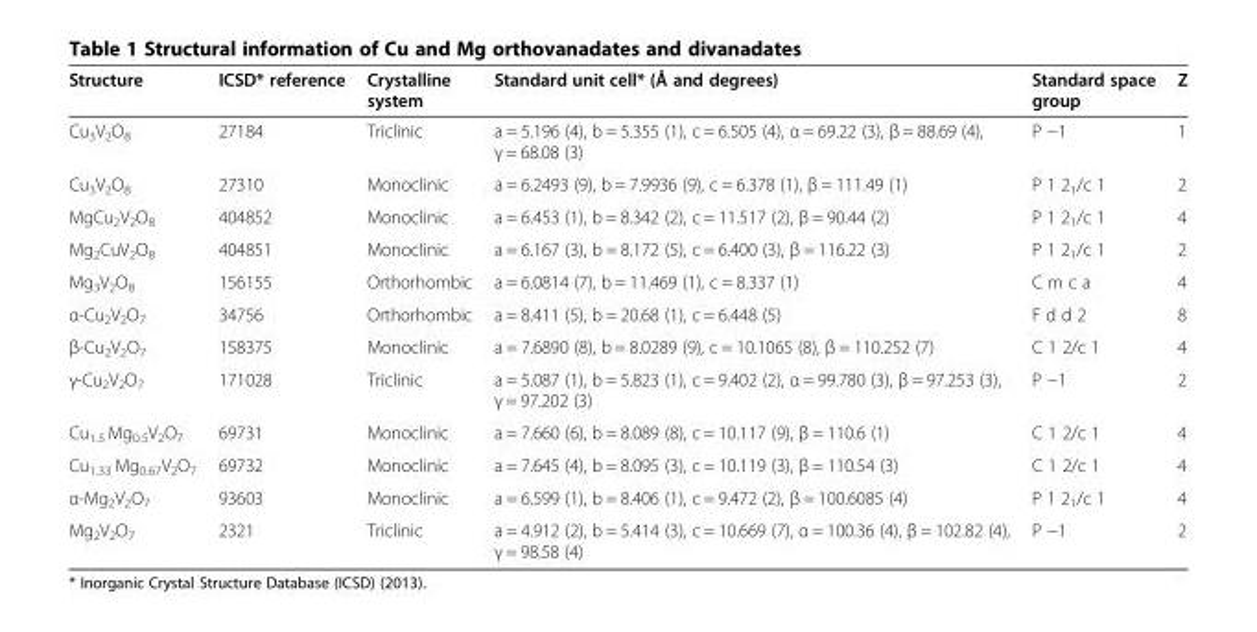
<table><thead><tr><td>Structure</td><td>ICSD* reference</td><td>Crystalline system</td><td>Standard unit cell* (Å and degrees)</td><td>Standard space group</td><td>Z</td></tr></thead><tbody><tr><td>Cu<sub>3</sub>V<sub>2</sub>O<sub>8</sub></td><td>27184</td><td>Triclinic</td><td>a = 5.196 (4), b = 5.355 (1), c = 6.505 (4), α = 69.22 (3), β = 88.69 (4), γ = 68.08 (3)</td><td>P −1</td><td>1</td></tr><tr><td>Cu<sub>3</sub>V<sub>2</sub>O<sub>8</sub></td><td>27310</td><td>Monoclinic</td><td>a = 6.2493 (9), b = 7.9936 (9), c = 6.378 (1), β = 111.49 (1)</td><td>P 1 2<sub>1</sub>/c 1</td><td>2</td></tr><tr><td>MgCu<sub>2</sub>V<sub>2</sub>O<sub>8</sub></td><td>404852</td><td>Monoclinic</td><td>a = 6.453 (1), b = 8.342 (2), c = 11.517 (2), β = 90.44 (2)</td><td>P 1 2<sub>1</sub>/c 1</td><td>4</td></tr><tr><td>Mg<sub>2</sub>CuV<sub>2</sub>O<sub>8</sub></td><td>404851</td><td>Monoclinic</td><td>a = 6.167 (3), b = 8.172 (5), c = 6.400 (3), β = 116.22 (3)</td><td>P 1 2<sub>1</sub>/c 1</td><td>2</td></tr><tr><td>Mg<sub>3</sub>V<sub>2</sub>O<sub>8</sub></td><td>156155</td><td>Orthorhombic</td><td>a = 6.0814 (7), b = 11.469 (1), c = 8.337 (1)</td><td>C m c a</td><td>4</td></tr><tr><td>α-Cu<sub>2</sub>V<sub>2</sub>O<sub>7</sub></td><td>34756</td><td>Orthorhombic</td><td>a = 8.411 (5), b = 20.68 (1), c = 6.448 (5)</td><td>F d d 2</td><td>8</td></tr><tr><td>β-Cu<sub>2</sub>V<sub>2</sub>O<sub>7</sub></td><td>158375</td><td>Monoclinic</td><td>a = 7.6890 (8), b = 8.0289 (9), c = 10.1065 (8), β = 110.252 (7)</td><td>C 1 2/c 1</td><td>4</td></tr><tr><td>γ-Cu<sub>2</sub>V<sub>2</sub>O<sub>7</sub></td><td>171028</td><td>Triclinic</td><td>a = 5.087 (1), b = 5.823 (1), c = 9.402 (2), α = 99.780 (3), β = 97.253 (3), γ = 97.202 (3)</td><td>P −1</td><td>2</td></tr><tr><td>Cu<sub>1.5</sub> Mg<sub>0.5</sub>V<sub>2</sub>O<sub>7</sub></td><td>69731</td><td>Monoclinic</td><td>a = 7.660 (6), b = 8.089 (8), c = 10.117 (9), β = 110.6 (1)</td><td>C 1 2/c 1</td><td>4</td></tr><tr><td>Cu<sub>1.33</sub> Mg<sub>0.67</sub>V<sub>2</sub>O<sub>7</sub></td><td>69732</td><td>Monoclinic</td><td>a = 7.645 (4), b = 8.095 (3), c = 10.119 (3), β = 110.54 (3)</td><td>C 1 2/c 1</td><td>4</td></tr><tr><td>α-Mg<sub>2</sub>V<sub>2</sub>O<sub>7</sub></td><td>93603</td><td>Monoclinic</td><td>a = 6.599 (1), b = 8.406 (1), c = 9.472 (2), β = 100.6085 (4)</td><td>P 1 2<sub>1</sub>/c 1</td><td>4</td></tr><tr><td>Mg<sub>2</sub>V<sub>2</sub>O<sub>7</sub></td><td>2321</td><td>Triclinic</td><td>a = 4.912 (2), b = 5.414 (3), c = 10.669 (7), α = 100.36 (4), β = 102.82 (4), γ = 98.58 (4)</td><td>P −1</td><td>2</td></tr></tbody></table>